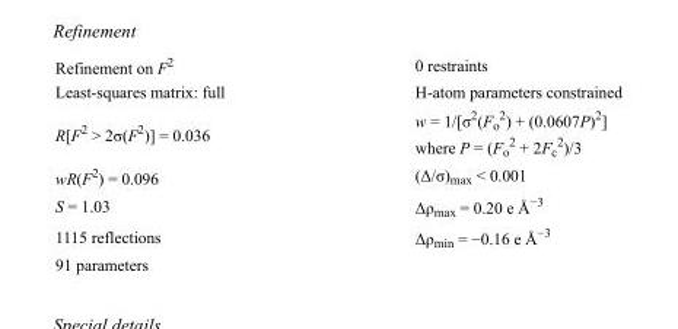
<table><tbody><tr><td>Refinement on F<sup>2</sup></td><td>0 restraints</td></tr><tr><td>Least-squares matrix: full</td><td>H-atom parameters constrained</td></tr><tr><td>R[F<sup>2</sup> &gt; 2σ(F<sup>2</sup>)] = 0.036</td><td>w = 1/[σ<sup>2</sup>(F<sub>o</sub> <sup>2</sup>) + (0.0607P)<sup>2</sup>] where P = (F<sub>o</sub> <sup>2</sup> + 2F<sub>c</sub> <sup>2</sup>)/3</td></tr><tr><td>wR(F<sup>2</sup>) = 0.096</td><td>(Δ/σ)<sub>max</sub> &lt; 0.001</td></tr><tr><td>S = 1.03</td><td>Δρ<sub>max</sub> = 0.20 e Å<sup>−3</sup></td></tr><tr><td>1115 reflections</td><td>Δρ<sub>min</sub> = −0.16 e Å<sup>−3</sup></td></tr><tr><td>91 parameters</td><td></td></tr></tbody></table>